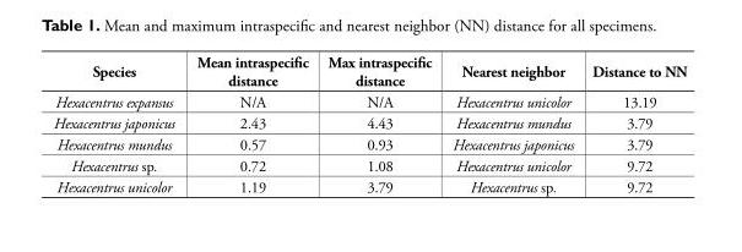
<table><thead><tr><td>Species</td><td>Mean intraspecific distance</td><td>Max intraspecific distance</td><td>Nearest neighbor</td><td>Distance to NN</td></tr></thead><tbody><tr><td>Hexacentrus expansus</td><td>N/A</td><td>N/A</td><td>Hexacentrus unicolor</td><td>13.19</td></tr><tr><td>Hexacentrus japonicus</td><td>2.43</td><td>4.43</td><td>Hexacentrus mundus</td><td>3.79</td></tr><tr><td>Hexacentrus mundus</td><td>0.57</td><td>0.93</td><td>Hexacentrus japonicus</td><td>3.79</td></tr><tr><td>Hexacentrus sp.</td><td>0.72</td><td>1.08</td><td>Hexacentrus unicolor</td><td>9.72</td></tr><tr><td>Hexacentrus unicolor</td><td>1.19</td><td>3.79</td><td>Hexacentrus sp.</td><td>9.72</td></tr></tbody></table>